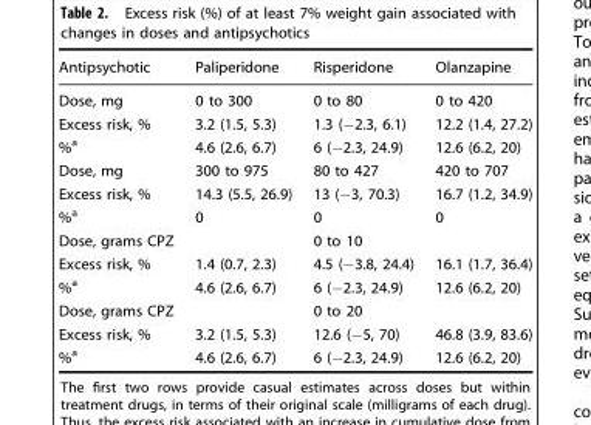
<table><thead><tr><td>Antipsychotic</td><td>Paliperidone</td><td>Risperidone</td><td>Olanzapine</td></tr></thead><tbody><tr><td>Dose, mg</td><td>0 to 300</td><td>0 to 80</td><td>0 to 420</td></tr><tr><td>Excess risk, %</td><td>3.2 (1.5, 5.3)</td><td>1.3 (−2.3, 6.1)</td><td>12.2 (1.4, 27.2)</td></tr><tr><td>%<sup>a</sup></td><td>4.6 (2.6, 6.7)</td><td>6 (−2.3, 24.9)</td><td>12.6 (6.2, 20)</td></tr><tr><td>Dose, mg</td><td>300 to 975</td><td>80 to 427</td><td>420 to 707</td></tr><tr><td>Excess risk, %</td><td>14.3 (5.5, 26.9)</td><td>13 (−3, 70.3)</td><td>16.7 (1.2, 34.9)</td></tr><tr><td>%<sup>a</sup></td><td>0</td><td>0</td><td>0</td></tr><tr><td>Dose, grams CPZ</td><td></td><td>0 to 10</td><td></td></tr><tr><td>Excess risk, %</td><td>1.4 (0.7, 2.3)</td><td>4.5 (−3.8, 24.4)</td><td>16.1 (1.7, 36.4)</td></tr><tr><td>%<sup>a</sup></td><td>4.6 (2.6, 6.7)</td><td>6 (−2.3, 24.9)</td><td>12.6 (6.2, 20)</td></tr><tr><td>Dose, grams CPZ</td><td></td><td>0 to 20</td><td></td></tr><tr><td>Excess risk, %</td><td>3.2 (1.5, 5.3)</td><td>12.6 (−5, 70)</td><td>46.8 (3.9, 83.6)</td></tr><tr><td>%<sup>a</sup></td><td>4.6 (2.6, 6.7)</td><td>6 (−2.3, 24.9)</td><td>12.6 (6.2, 20)</td></tr></tbody></table>